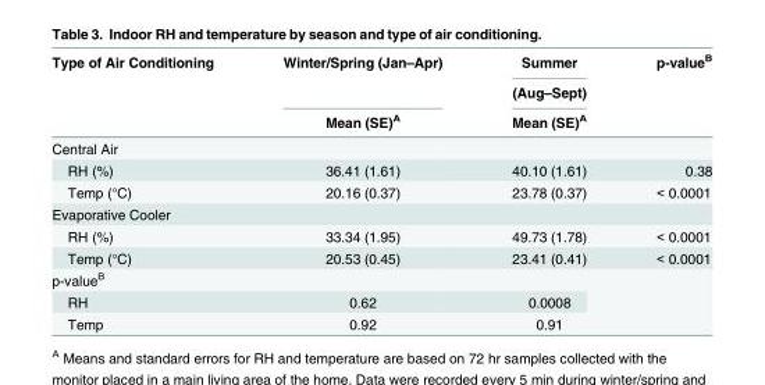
<table><thead><tr><td rowspan="3">Type of Air Conditioning</td><td rowspan="3">Winter/Spring (Jan–Apr) Mean (SE)<sup>A</sup></td><td rowspan="3">Summer (Aug–Sept) Mean (SE)<sup>A</sup></td><td rowspan="3">p-value<sup>B</sup></td></tr><tr></tr><tr></tr></thead><tbody><tr><td colspan="4">Central Air</td></tr><tr><td>RH (%)</td><td>36.41 (1.61)</td><td>40.10 (1.61)</td><td>0.38</td></tr><tr><td>Temp (°C)</td><td>20.16 (0.37)</td><td>23.78 (0.37)</td><td>&lt; 0.0001</td></tr><tr><td colspan="4">Evaporative Cooler</td></tr><tr><td>RH (%)</td><td>33.34 (1.95)</td><td>49.73 (1.78)</td><td>&lt; 0.0001</td></tr><tr><td>Temp (°C)</td><td>20.53 (0.45)</td><td>23.41 (0.41)</td><td>&lt; 0.0001</td></tr><tr><td colspan="3">p-value<sup>B</sup></td><td rowspan="3"></td></tr><tr><td>RH</td><td>0.62</td><td>0.0008</td></tr><tr><td>Temp</td><td>0.92</td><td>0.91</td></tr></tbody></table>